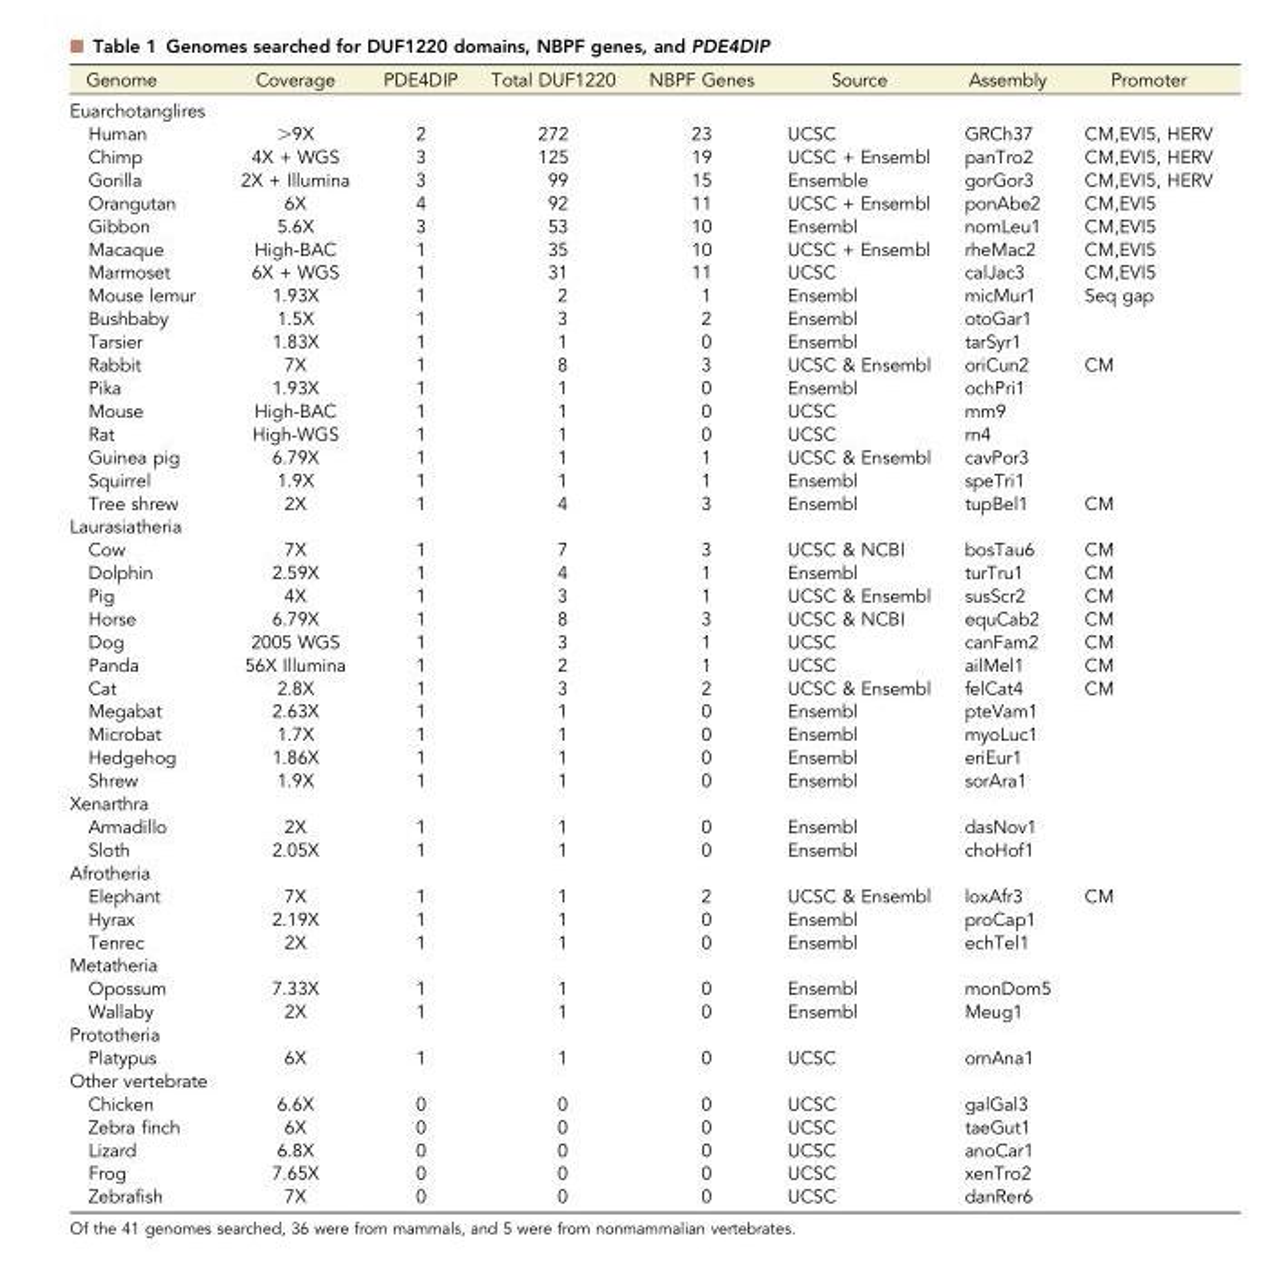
<table><thead><tr><td>Genome</td><td>Coverage</td><td>PDE4DIP</td><td>Total DUF1220</td><td>NBPF Genes</td><td>Source</td><td>Assembly</td><td>Promoter</td></tr></thead><tbody><tr><td colspan="8">Euarchotanglires</td></tr><tr><td>Human</td><td>&gt;9X</td><td>2</td><td>272</td><td>23</td><td>UCSC</td><td>GRCh37</td><td>CM,EVI5, HERV</td></tr><tr><td>Chimp</td><td>4X + WGS</td><td>3</td><td>125</td><td>19</td><td>UCSC + Ensembl</td><td>panTro2</td><td>CM,EVI5, HERV</td></tr><tr><td>Gorilla</td><td>2X + Illumina</td><td>3</td><td>99</td><td>15</td><td>Ensemble</td><td>gorGor3</td><td>CM,EVI5, HERV</td></tr><tr><td>Orangutan</td><td>6X</td><td>4</td><td>92</td><td>11</td><td>UCSC + Ensembl</td><td>ponAbe2</td><td>CM,EVI5</td></tr><tr><td>Gibbon</td><td>5.6X</td><td>3</td><td>53</td><td>10</td><td>Ensembl</td><td>nomLeu1</td><td>CM,EVI5</td></tr><tr><td>Macaque</td><td>High-BAC</td><td>1</td><td>35</td><td>10</td><td>UCSC + Ensembl</td><td>rheMac2</td><td>CM,EVI5</td></tr><tr><td>Marmoset</td><td>6X + WGS</td><td>1</td><td>31</td><td>11</td><td>UCSC</td><td>calJac3</td><td>CM,EVI5</td></tr><tr><td>Mouse lemur</td><td>1.93X</td><td>1</td><td>2</td><td>1</td><td>Ensembl</td><td>micMur1</td><td>Seq gap</td></tr><tr><td>Bushbaby</td><td>1.5X</td><td>1</td><td>3</td><td>2</td><td>Ensembl</td><td>otoGar1</td><td></td></tr><tr><td>Tarsier</td><td>1.83X</td><td>1</td><td>1</td><td>0</td><td>Ensembl</td><td>tarSyr1</td><td></td></tr><tr><td>Rabbit</td><td>7X</td><td>1</td><td>8</td><td>3</td><td>UCSC &amp; Ensembl</td><td>oriCun2</td><td>CM</td></tr><tr><td>Pika</td><td>1.93X</td><td>1</td><td>1</td><td>0</td><td>Ensembl</td><td>ochPri1</td><td></td></tr><tr><td>Mouse</td><td>High-BAC</td><td>1</td><td>1</td><td>0</td><td>UCSC</td><td>mm9</td><td></td></tr><tr><td>Rat</td><td>High-WGS</td><td>1</td><td>1</td><td>0</td><td>UCSC</td><td>rn4</td><td></td></tr><tr><td>Guinea pig</td><td>6.79X</td><td>1</td><td>1</td><td>1</td><td>UCSC &amp; Ensembl</td><td>cavPor3</td><td></td></tr><tr><td>Squirrel</td><td>1.9X</td><td>1</td><td>1</td><td>1</td><td>Ensembl</td><td>speTri1</td><td></td></tr><tr><td>Tree shrew</td><td>2X</td><td>1</td><td>4</td><td>3</td><td>Ensembl</td><td>tupBel1</td><td>CM</td></tr><tr><td colspan="8">Laurasiatheria</td></tr><tr><td>Cow</td><td>7X</td><td>1</td><td>7</td><td>3</td><td>UCSC &amp; NCBI</td><td>bosTau6</td><td>CM</td></tr><tr><td>Dolphin</td><td>2.59X</td><td>1</td><td>4</td><td>1</td><td>Ensembl</td><td>turTru1</td><td>CM</td></tr><tr><td>Pig</td><td>4X</td><td>1</td><td>3</td><td>1</td><td>UCSC &amp; Ensembl</td><td>susScr2</td><td>CM</td></tr><tr><td>Horse</td><td>6.79X</td><td>1</td><td>8</td><td>3</td><td>UCSC &amp; NCBI</td><td>equCab2</td><td>CM</td></tr><tr><td>Dog</td><td>2005 WGS</td><td>1</td><td>3</td><td>1</td><td>UCSC</td><td>canFam2</td><td>CM</td></tr><tr><td>Panda</td><td>56X Illumina</td><td>1</td><td>2</td><td>1</td><td>UCSC</td><td>ailMel1</td><td>CM</td></tr><tr><td>Cat</td><td>2.8X</td><td>1</td><td>3</td><td>2</td><td>UCSC &amp; Ensembl</td><td>felCat4</td><td>CM</td></tr><tr><td>Megabat</td><td>2.63X</td><td>1</td><td>1</td><td>0</td><td>Ensembl</td><td>pteVam1</td><td></td></tr><tr><td>Microbat</td><td>1.7X</td><td>1</td><td>1</td><td>0</td><td>Ensembl</td><td>myoLuc1</td><td></td></tr><tr><td>Hedgehog</td><td>1.86X</td><td>1</td><td>1</td><td>0</td><td>Ensembl</td><td>eriEur1</td><td></td></tr><tr><td>Shrew</td><td>1.9X</td><td>1</td><td>1</td><td>0</td><td>Ensembl</td><td>sorAra1</td><td></td></tr><tr><td colspan="8">Xenarthra</td></tr><tr><td>Armadillo</td><td>2X</td><td>1</td><td>1</td><td>0</td><td>Ensembl</td><td>dasNov1</td><td></td></tr><tr><td>Sloth</td><td>2.05X</td><td>1</td><td>1</td><td>0</td><td>Ensembl</td><td>choHof1</td><td></td></tr><tr><td colspan="8">Afrotheria</td></tr><tr><td>Elephant</td><td>7X</td><td>1</td><td>1</td><td>2</td><td>UCSC &amp; Ensembl</td><td>loxAfr3</td><td>CM</td></tr><tr><td>Hyrax</td><td>2.19X</td><td>1</td><td>1</td><td>0</td><td>Ensembl</td><td>proCap1</td><td></td></tr><tr><td>Tenrec</td><td>2X</td><td>1</td><td>1</td><td>0</td><td>Ensembl</td><td>echTel1</td><td></td></tr><tr><td colspan="8">Metatheria</td></tr><tr><td>Opossum</td><td>7.33X</td><td>1</td><td>1</td><td>0</td><td>Ensembl</td><td>monDom5</td><td></td></tr><tr><td>Wallaby</td><td>2X</td><td>1</td><td>1</td><td>0</td><td>Ensembl</td><td>Meug1</td><td></td></tr><tr><td colspan="8">Prototheria</td></tr><tr><td>Platypus</td><td>6X</td><td>1</td><td>1</td><td>0</td><td>UCSC</td><td>ornAna1</td><td></td></tr><tr><td colspan="8">Other vertebrate</td></tr><tr><td>Chicken</td><td>6.6X</td><td>0</td><td>0</td><td>0</td><td>UCSC</td><td>galGal3</td><td></td></tr><tr><td>Zebra finch</td><td>6X</td><td>0</td><td>0</td><td>0</td><td>UCSC</td><td>taeGut1</td><td></td></tr><tr><td>Lizard</td><td>6.8X</td><td>0</td><td>0</td><td>0</td><td>UCSC</td><td>anoCar1</td><td></td></tr><tr><td>Frog</td><td>7.65X</td><td>0</td><td>0</td><td>0</td><td>UCSC</td><td>xenTro2</td><td></td></tr><tr><td>Zebrafish</td><td>7X</td><td>0</td><td>0</td><td>0</td><td>UCSC</td><td>danRer6</td><td></td></tr></tbody></table>